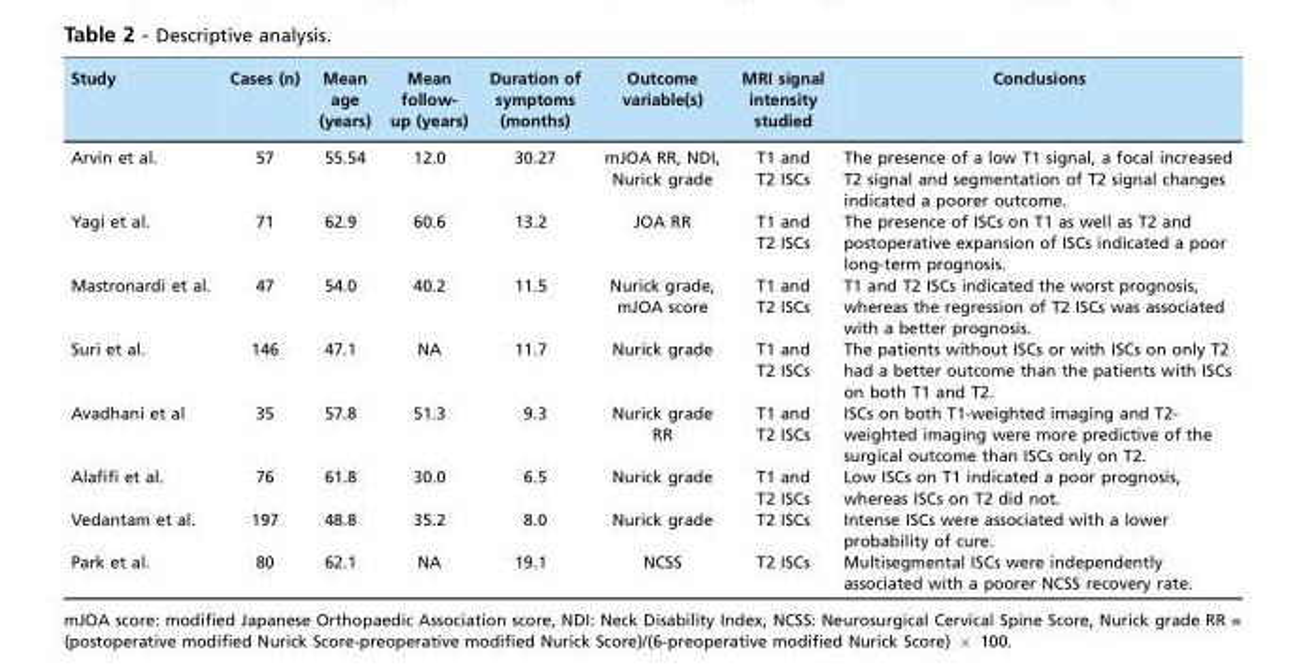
<table><thead><tr><td>Study</td><td>Cases (n)</td><td>Mean age (years)</td><td>Mean follow- up (years)</td><td>Duration of symptoms (months)</td><td>Outcome variable(s)</td><td>MRI signal intensity studied</td><td>Conclusions</td></tr></thead><tbody><tr><td>Arvin et al.</td><td>57</td><td>55.54</td><td>12.0</td><td>30.27</td><td>mJOA RR, NDI, Nurick grade</td><td>T1 and T2 ISCs</td><td>The presence of a low T1 signal, a focal increased T2 signal and segmentation of T2 signal changes indicated a poorer outcome.</td></tr><tr><td>Yagi et al.</td><td>71</td><td>62.9</td><td>60.6</td><td>13.2</td><td>JOA RR</td><td>T1 and T2 ISCs</td><td>The presence of ISCs on T1 as well as T2 and postoperative expansion of ISCs indicated a poor long-term prognosis.</td></tr><tr><td>Mastronardi et al.</td><td>47</td><td>54.0</td><td>40.2</td><td>11.5</td><td>Nurick grade, mJOA score</td><td>T1 and T2 ISCs</td><td>T1 and T2 ISCs indicated the worst prognosis, whereas the regression of T2 ISCs was associated with a better prognosis.</td></tr><tr><td>Suri et al.</td><td>146</td><td>47.1</td><td>NA</td><td>11.7</td><td>Nurick grade</td><td>T1 and T2 ISCs</td><td>The patients without ISCs or with ISCs on only T2 had a better outcome than the patients with ISCs on both T1 and T2.</td></tr><tr><td>Avadhani et al</td><td>35</td><td>57.8</td><td>51.3</td><td>9.3</td><td>Nurick grade RR</td><td>T1 and T2 ISCs</td><td>ISCs on both T1-weighted imaging and T2- weighted imaging were more predictive of the surgical outcome than ISCs only on T2.</td></tr><tr><td>Alafifi et al.</td><td>76</td><td>61.8</td><td>30.0</td><td>6.5</td><td>Nurick grade</td><td>T1 and T2 ISCs</td><td>Low ISCs on T1 indicated a poor prognosis, whereas ISCs on T2 did not.</td></tr><tr><td>Vedantam et al.</td><td>197</td><td>48.8</td><td>35.2</td><td>8.0</td><td>Nurick grade</td><td>T2 ISCs</td><td>Intense ISCs were associated with a lower probability of cure.</td></tr><tr><td>Park et al.</td><td>80</td><td>62.1</td><td>NA</td><td>19.1</td><td>NCSS</td><td>T2 ISCs</td><td>Multisegmental ISCs were independently associated with a poorer NCSS recovery rate.</td></tr></tbody></table>